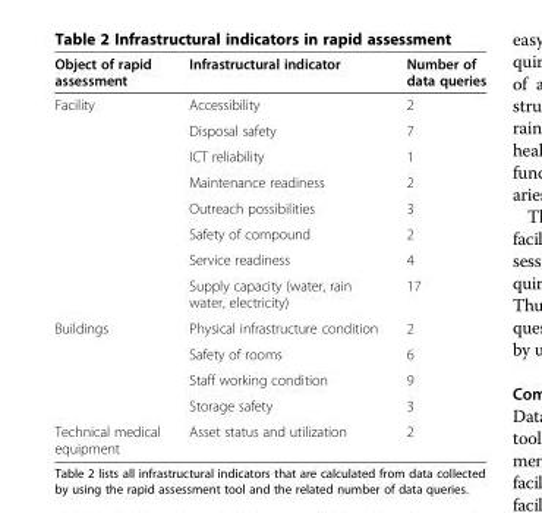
<table><thead><tr><td>Object of rapid assessment</td><td>Infrastructural indicator</td><td>Number of data queries</td></tr></thead><tbody><tr><td rowspan="8">Facility</td><td>Accessibility</td><td>2</td></tr><tr><td>Disposal safety</td><td>7</td></tr><tr><td>ICT reliability</td><td>1</td></tr><tr><td>Maintenance readiness</td><td>2</td></tr><tr><td>Outreach possibilities</td><td>3</td></tr><tr><td>Safety of compound</td><td>2</td></tr><tr><td>Service readiness</td><td>4</td></tr><tr><td>Supply capacity (water, rain water, electricity)</td><td>17</td></tr><tr><td rowspan="4">Buildings</td><td>Physical infrastructure condition</td><td>2</td></tr><tr><td>Safety of rooms</td><td>6</td></tr><tr><td>Staff working condition</td><td>9</td></tr><tr><td>Storage safety</td><td>3</td></tr><tr><td>Technical medical equipment</td><td>Asset status and utilization</td><td>2</td></tr></tbody></table>